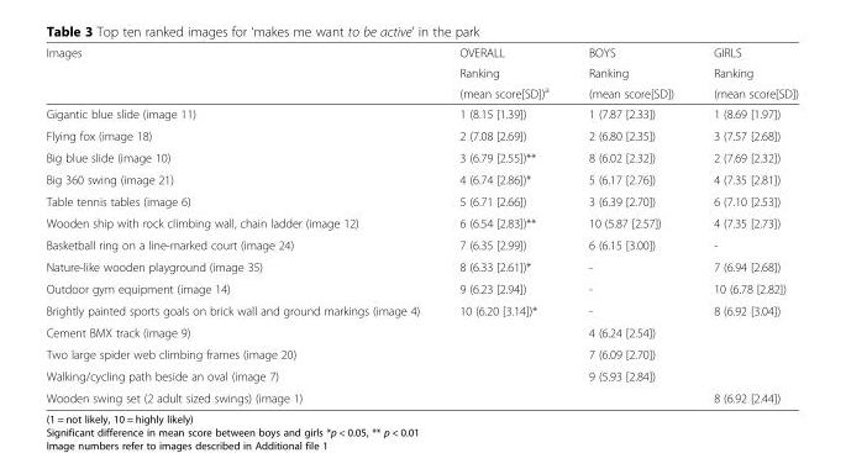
<table><thead><tr><td rowspan="3">Images</td><td rowspan="3">OVERALL Ranking (mean score[SD])<sup>a</sup></td><td rowspan="3">BOYS Ranking (mean score[SD])</td><td rowspan="3">GIRLS Ranking (mean score[SD])</td></tr><tr></tr><tr></tr></thead><tbody><tr><td>Gigantic blue slide (image 11)</td><td>1 (8.15 [1.39])</td><td>1 (7.87 [2.33])</td><td>1 (8.69 [1.97])</td></tr><tr><td>Flying fox (image 18)</td><td>2 (7.08 [2.69])</td><td>2 (6.80 [2.35])</td><td>3 (7.57 [2.68])</td></tr><tr><td>Big blue slide (image 10)</td><td>3 (6.79 [2.55])**</td><td>8 (6.02 [2.32])</td><td>2 (7.69 [2.32])</td></tr><tr><td>Big 360 swing (image 21)</td><td>4 (6.74 [2.86])*</td><td>5 (6.17 [2.76])</td><td>4 (7.35 [2.81])</td></tr><tr><td>Table tennis tables (image 6)</td><td>5 (6.71 [2.66])</td><td>3 (6.39 [2.70])</td><td>6 (7.10 [2.53])</td></tr><tr><td>Wooden ship with rock climbing wall, chain ladder (image 12)</td><td>6 (6.54 [2.83])**</td><td>10 (5.87 [2.57])</td><td>4 (7.35 [2.73])</td></tr><tr><td>Basketball ring on a line-marked court (image 24)</td><td>7 (6.35 [2.99])</td><td>6 (6.15 [3.00])</td><td>-</td></tr><tr><td>Nature-like wooden playground (image 35)</td><td>8 (6.33 [2.61])*</td><td>-</td><td>7 (6.94 [2.68])</td></tr><tr><td>Outdoor gym equipment (image 14)</td><td>9 (6.23 [2.94])</td><td>-</td><td>10 (6.78 [2.82])</td></tr><tr><td>Brightly painted sports goals on brick wall and ground markings (image 4)</td><td>10 (6.20 [3.14])*</td><td>-</td><td>8 (6.92 [3.04])</td></tr><tr><td>Cement BMX track (image 9)</td><td></td><td>4 (6.24 [2.54])</td><td></td></tr><tr><td>Two large spider web climbing frames (image 20)</td><td></td><td>7 (6.09 [2.70])</td><td></td></tr><tr><td>Walking/cycling path beside an oval (image 7)</td><td></td><td>9 (5.93 [2.84])</td><td></td></tr><tr><td>Wooden swing set (2 adult sized swings) (image 1)</td><td></td><td></td><td>8 (6.92 [2.44])</td></tr></tbody></table>